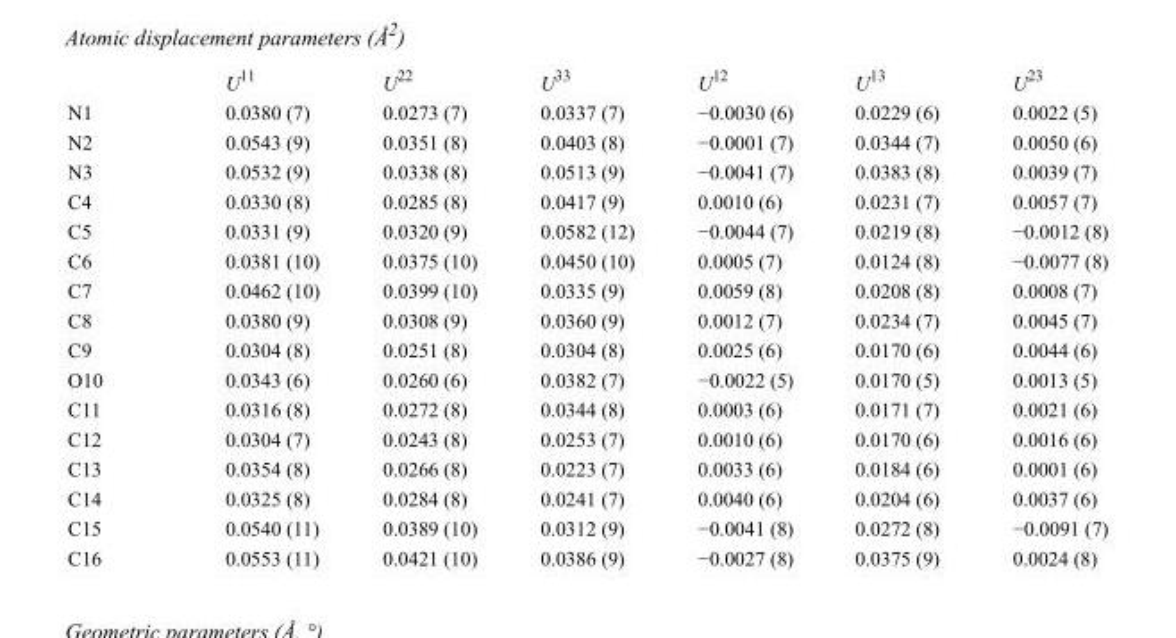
<table><thead><tr><td></td><td>U<sup>11</sup></td><td>U<sup>22</sup></td><td>U<sup>33</sup></td><td>U<sup>12</sup></td><td>U<sup>13</sup></td><td>U<sup>23</sup></td></tr></thead><tbody><tr><td>N1</td><td>0.0380 (7)</td><td>0.0273 (7)</td><td>0.0337 (7)</td><td>−0.0030 (6)</td><td>0.0229 (6)</td><td>0.0022 (5)</td></tr><tr><td>N2</td><td>0.0543 (9)</td><td>0.0351 (8)</td><td>0.0403 (8)</td><td>−0.0001 (7)</td><td>0.0344 (7)</td><td>0.0050 (6)</td></tr><tr><td>N3</td><td>0.0532 (9)</td><td>0.0338 (8)</td><td>0.0513 (9)</td><td>−0.0041 (7)</td><td>0.0383 (8)</td><td>0.0039 (7)</td></tr><tr><td>C4</td><td>0.0330 (8)</td><td>0.0285 (8)</td><td>0.0417 (9)</td><td>0.0010 (6)</td><td>0.0231 (7)</td><td>0.0057 (7)</td></tr><tr><td>C5</td><td>0.0331 (9)</td><td>0.0320 (9)</td><td>0.0582 (12)</td><td>−0.0044 (7)</td><td>0.0219 (8)</td><td>−0.0012 (8)</td></tr><tr><td>C6</td><td>0.0381 (10)</td><td>0.0375 (10)</td><td>0.0450 (10)</td><td>0.0005 (7)</td><td>0.0124 (8)</td><td>−0.0077 (8)</td></tr><tr><td>C7</td><td>0.0462 (10)</td><td>0.0399 (10)</td><td>0.0335 (9)</td><td>0.0059 (8)</td><td>0.0208 (8)</td><td>0.0008 (7)</td></tr><tr><td>C8</td><td>0.0380 (9)</td><td>0.0308 (9)</td><td>0.0360 (9)</td><td>0.0012 (7)</td><td>0.0234 (7)</td><td>0.0045 (7)</td></tr><tr><td>C9</td><td>0.0304 (8)</td><td>0.0251 (8)</td><td>0.0304 (8)</td><td>0.0025 (6)</td><td>0.0170 (6)</td><td>0.0044 (6)</td></tr><tr><td>O10</td><td>0.0343 (6)</td><td>0.0260 (6)</td><td>0.0382 (7)</td><td>−0.0022 (5)</td><td>0.0170 (5)</td><td>0.0013 (5)</td></tr><tr><td>C11</td><td>0.0316 (8)</td><td>0.0272 (8)</td><td>0.0344 (8)</td><td>0.0003 (6)</td><td>0.0171 (7)</td><td>0.0021 (6)</td></tr><tr><td>C12</td><td>0.0304 (7)</td><td>0.0243 (8)</td><td>0.0253 (7)</td><td>0.0010 (6)</td><td>0.0170 (6)</td><td>0.0016 (6)</td></tr><tr><td>C13</td><td>0.0354 (8)</td><td>0.0266 (8)</td><td>0.0223 (7)</td><td>0.0033 (6)</td><td>0.0184 (6)</td><td>0.0001 (6)</td></tr><tr><td>C14</td><td>0.0325 (8)</td><td>0.0284 (8)</td><td>0.0241 (7)</td><td>0.0040 (6)</td><td>0.0204 (6)</td><td>0.0037 (6)</td></tr><tr><td>C15</td><td>0.0540 (11)</td><td>0.0389 (10)</td><td>0.0312 (9)</td><td>−0.0041 (8)</td><td>0.0272 (8)</td><td>−0.0091 (7)</td></tr><tr><td>C16</td><td>0.0553 (11)</td><td>0.0421 (10)</td><td>0.0386 (9)</td><td>−0.0027 (8)</td><td>0.0375 (9)</td><td>0.0024 (8)</td></tr></tbody></table>